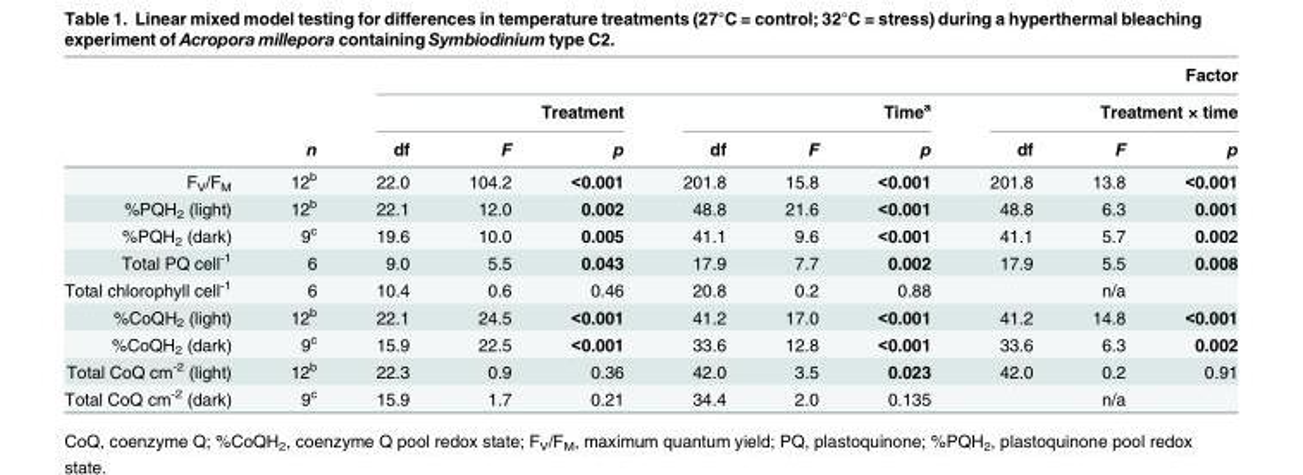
<table><thead><tr><td rowspan="3"></td><td rowspan="3">n</td><td colspan="9">Factor</td></tr><tr><td colspan="3">Treatment</td><td colspan="3">Time<sup>a</sup></td><td colspan="3">Treatment × time</td></tr><tr><td>df</td><td>F</td><td>p</td><td>df</td><td>F</td><td>p</td><td>df</td><td>F</td><td>p</td></tr></thead><tbody><tr><td>F<sub>V</sub>/F<sub>M</sub></td><td>12<sup>b</sup></td><td>22.0</td><td>104.2</td><td>&lt;0.001</td><td>201.8</td><td>15.8</td><td>&lt;0.001</td><td>201.8</td><td>13.8</td><td>&lt;0.001</td></tr><tr><td>%PQH<sub>2</sub> (light)</td><td>12<sup>b</sup></td><td>22.1</td><td>12.0</td><td>0.002</td><td>48.8</td><td>21.6</td><td>&lt;0.001</td><td>48.8</td><td>6.3</td><td>0.001</td></tr><tr><td>%PQH<sub>2</sub> (dark)</td><td>9<sup>c</sup></td><td>19.6</td><td>10.0</td><td>0.005</td><td>41.1</td><td>9.6</td><td>&lt;0.001</td><td>41.1</td><td>5.7</td><td>0.002</td></tr><tr><td>Total PQ cell<sup>-1</sup></td><td>6</td><td>9.0</td><td>5.5</td><td>0.043</td><td>17.9</td><td>7.7</td><td>0.002</td><td>17.9</td><td>5.5</td><td>0.008</td></tr><tr><td>Total chlorophyll cell<sup>-1</sup></td><td>6</td><td>10.4</td><td>0.6</td><td>0.46</td><td>20.8</td><td>0.2</td><td>0.88</td><td></td><td>n/a</td><td></td></tr><tr><td>%CoQH<sub>2</sub> (light)</td><td>12<sup>b</sup></td><td>22.1</td><td>24.5</td><td>&lt;0.001</td><td>41.2</td><td>17.0</td><td>&lt;0.001</td><td>41.2</td><td>14.8</td><td>&lt;0.001</td></tr><tr><td>%CoQH<sub>2</sub> (dark)</td><td>9<sup>c</sup></td><td>15.9</td><td>22.5</td><td>&lt;0.001</td><td>33.6</td><td>12.8</td><td>&lt;0.001</td><td>33.6</td><td>6.3</td><td>0.002</td></tr><tr><td>Total CoQ cm<sup>-2</sup> (light)</td><td>12<sup>b</sup></td><td>22.3</td><td>0.9</td><td>0.36</td><td>42.0</td><td>3.5</td><td>0.023</td><td>42.0</td><td>0.2</td><td>0.91</td></tr><tr><td>Total CoQ cm<sup>-2</sup> (dark)</td><td>9<sup>c</sup></td><td>15.9</td><td>1.7</td><td>0.21</td><td>34.4</td><td>2.0</td><td>0.135</td><td></td><td>n/a</td><td></td></tr></tbody></table>